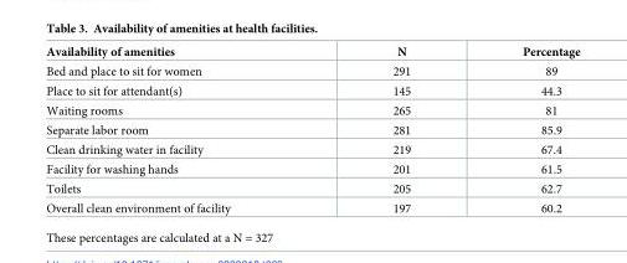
<table><thead><tr><td>Availability of amenities</td><td>N</td><td>Percentage</td></tr></thead><tbody><tr><td>Bed and place to sit for women</td><td>291</td><td>89</td></tr><tr><td>Place to sit for attendant(s)</td><td>145</td><td>44.3</td></tr><tr><td>Waiting rooms</td><td>265</td><td>81</td></tr><tr><td>Separate labor room</td><td>281</td><td>85.9</td></tr><tr><td>Clean drinking water in facility</td><td>219</td><td>67.4</td></tr><tr><td>Facility for washing hands</td><td>201</td><td>61.5</td></tr><tr><td>Toilets</td><td>205</td><td>62.7</td></tr><tr><td>Overall clean environment of facility</td><td>197</td><td>60.2</td></tr></tbody></table>